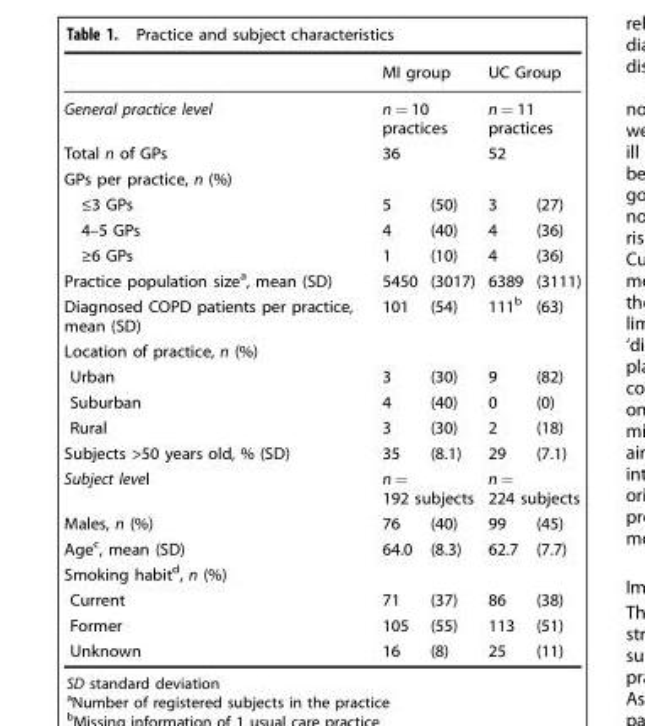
<table><thead><tr><td rowspan="3">General practice level Total n of GPs</td><td rowspan="2" colspan="2">MI group n = 10 practices</td><td rowspan="2" colspan="2">UC Group n = 11 practices</td></tr><tr></tr><tr><td>36</td><td></td><td>52</td><td></td></tr></thead><tbody><tr><td colspan="5">GPs per practice, n (%)</td></tr><tr><td>≤3 GPs</td><td>5</td><td>(50)</td><td>3</td><td>(27)</td></tr><tr><td>4–5 GPs</td><td>4</td><td>(40)</td><td>4</td><td>(36)</td></tr><tr><td>≥6 GPs</td><td>1</td><td>(10)</td><td>4</td><td>(36)</td></tr><tr><td>Practice population size<sup>a</sup>, mean (SD)</td><td>5450</td><td>(3017)</td><td>6389</td><td>(3111)</td></tr><tr><td>Diagnosed COPD patients per practice, mean (SD)</td><td>101</td><td>(54)</td><td>111<sup>b</sup></td><td>(63)</td></tr><tr><td colspan="5">Location of practice, n (%)</td></tr><tr><td>Urban</td><td>3</td><td>(30)</td><td>9</td><td>(82)</td></tr><tr><td>Suburban</td><td>4</td><td>(40)</td><td>0</td><td>(0)</td></tr><tr><td>Rural</td><td>3</td><td>(30)</td><td>2</td><td>(18)</td></tr><tr><td>Subjects &gt;50 years old, % (SD)</td><td>35</td><td>(8.1)</td><td>29</td><td>(7.1)</td></tr><tr><td>Subject level</td><td colspan="2">n = 192 subjects</td><td colspan="2">n = 224 subjects</td></tr><tr><td>Males, n (%)</td><td>76</td><td>(40)</td><td>99</td><td>(45)</td></tr><tr><td>Age<sup>c</sup>, mean (SD)</td><td>64.0</td><td>(8.3)</td><td>62.7</td><td>(7.7)</td></tr><tr><td colspan="5">Smoking habit<sup>d</sup>, n (%)</td></tr><tr><td>Current</td><td>71</td><td>(37)</td><td>86</td><td>(38)</td></tr><tr><td>Former</td><td>105</td><td>(55)</td><td>113</td><td>(51)</td></tr><tr><td>Unknown</td><td>16</td><td>(8)</td><td>25</td><td>(11)</td></tr></tbody></table>